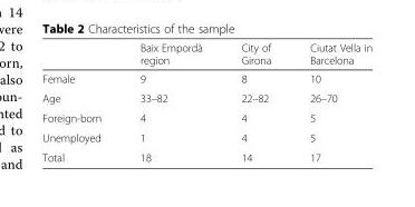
<table><thead><tr><td></td><td>Baix Empordà region</td><td>City of Girona</td><td>Ciutat Vella in Barcelona</td></tr></thead><tbody><tr><td>Female</td><td>9</td><td>8</td><td>10</td></tr><tr><td>Age</td><td>33–82</td><td>22–82</td><td>26–70</td></tr><tr><td>Foreign-born</td><td>4</td><td>4</td><td>5</td></tr><tr><td>Unemployed</td><td>1</td><td>4</td><td>5</td></tr><tr><td>Total</td><td>18</td><td>14</td><td>17</td></tr></tbody></table>